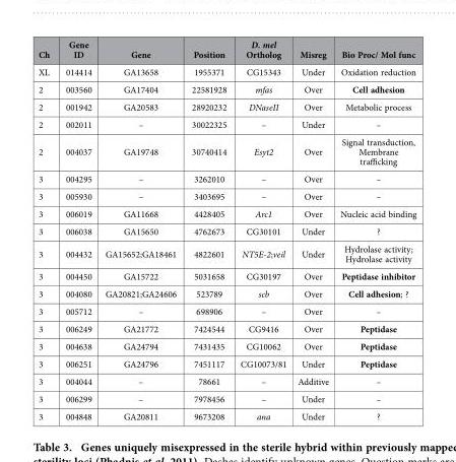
<table><thead><tr><td>Ch</td><td>Gene ID</td><td>Gene</td><td>Position</td><td>D. mel Ortholog</td><td>Misreg</td><td>Bio Proc/ Mol func</td></tr></thead><tbody><tr><td>XL</td><td>014414</td><td>GA13658</td><td>1955371</td><td>CG15343</td><td>Under</td><td>Oxidation reduction</td></tr><tr><td>2</td><td>003560</td><td>GA17404</td><td>22581928</td><td>mfas</td><td>Over</td><td>Cell adhesion</td></tr><tr><td>2</td><td>001942</td><td>GA20583</td><td>28920232</td><td>DNaseII</td><td>Over</td><td>Metabolic process</td></tr><tr><td>2</td><td>002011</td><td>–</td><td>30022325</td><td>–</td><td>Under</td><td>–</td></tr><tr><td>2</td><td>004037</td><td>GA19748</td><td>30740414</td><td>Esyt2</td><td>Over</td><td>Signal transduction, Membrane trafficking</td></tr><tr><td>3</td><td>004295</td><td>–</td><td>3262010</td><td>–</td><td>Over</td><td>–</td></tr><tr><td>3</td><td>005930</td><td>–</td><td>3403695</td><td>–</td><td>Over</td><td>–</td></tr><tr><td>3</td><td>006019</td><td>GA11668</td><td>4428405</td><td>Arc1</td><td>Over</td><td>Nucleic acid binding</td></tr><tr><td>3</td><td>006038</td><td>GA15650</td><td>4762673</td><td>CG30101</td><td>Under</td><td>?</td></tr><tr><td>3</td><td>004432</td><td>GA15652;GA18461</td><td>4822601</td><td>NT5E-2;veil</td><td>Under</td><td>Hydrolase activity; Hydrolase activity</td></tr><tr><td>3</td><td>004450</td><td>GA15722</td><td>5031658</td><td>CG30197</td><td>Over</td><td>Peptidase inhibitor</td></tr><tr><td>3</td><td>004080</td><td>GA20821;GA24606</td><td>523789</td><td>scb</td><td>Over</td><td>Cell adhesion; ?</td></tr><tr><td>3</td><td>005712</td><td>–</td><td>698906</td><td>–</td><td>Over</td><td>–</td></tr><tr><td>3</td><td>006249</td><td>GA21772</td><td>7424544</td><td>CG9416</td><td>Over</td><td>Peptidase</td></tr><tr><td>3</td><td>004638</td><td>GA24794</td><td>7431435</td><td>CG10062</td><td>Over</td><td>Peptidase</td></tr><tr><td>3</td><td>006251</td><td>GA24796</td><td>7451117</td><td>CG10073/81</td><td>Under</td><td>Peptidase</td></tr><tr><td>3</td><td>004044</td><td>–</td><td>78661</td><td>–</td><td>Additive</td><td>–</td></tr><tr><td>3</td><td>006299</td><td>–</td><td>7978456</td><td>–</td><td>Under</td><td>–</td></tr><tr><td>3</td><td>004848</td><td>GA20811</td><td>9673208</td><td>ana</td><td>Under</td><td>?</td></tr></tbody></table>